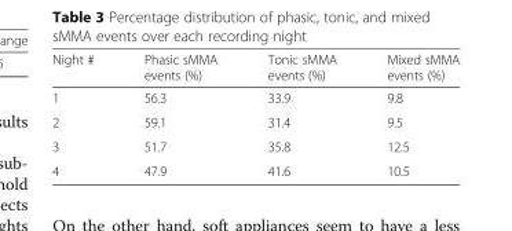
<table><thead><tr><td>Night #</td><td>Phasic sMMA events (%)</td><td>Tonic sMMA events (%)</td><td>Mixed sMMA events (%)</td></tr></thead><tbody><tr><td>1</td><td>56.3</td><td>33.9</td><td>9.8</td></tr><tr><td>2</td><td>59.1</td><td>31.4</td><td>9.5</td></tr><tr><td>3</td><td>51.7</td><td>35.8</td><td>12.5</td></tr><tr><td>4</td><td>47.9</td><td>41.6</td><td>10.5</td></tr></tbody></table>